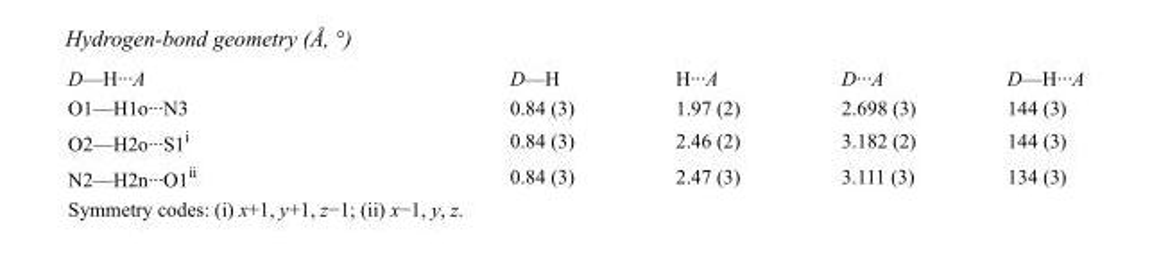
<table><tbody><tr><td>D—H···A</td><td>D—H</td><td>H···A</td><td>D···A</td><td>D—H···A</td></tr><tr><td>O1—H1o···N3</td><td>0.84 (3)</td><td>1.97 (2)</td><td>2.698 (3)</td><td>144 (3)</td></tr><tr><td>O2—H2o···S1<sup>i</sup></td><td>0.84 (3)</td><td>2.46 (2)</td><td>3.182 (2)</td><td>144 (3)</td></tr><tr><td>N2—H2n···O1<sup>ii</sup></td><td>0.84 (3)</td><td>2.47 (3)</td><td>3.111 (3)</td><td>134 (3)</td></tr></tbody></table>